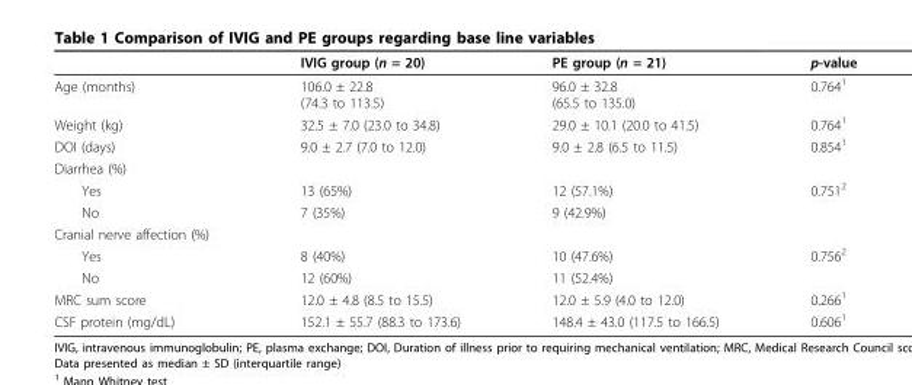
<table><thead><tr><td></td><td>IVIG group (n = 20)</td><td>PE group (n = 21)</td><td>p-value</td></tr></thead><tbody><tr><td>Age (months)</td><td>106.0 ± 22.8 (74.3 to 113.5)</td><td>96.0 ± 32.8 (65.5 to 135.0)</td><td>0.764<sup>1</sup></td></tr><tr><td>Weight (kg)</td><td>32.5 ± 7.0 (23.0 to 34.8)</td><td>29.0 ± 10.1 (20.0 to 41.5)</td><td>0.764<sup>1</sup></td></tr><tr><td>DOI (days)</td><td>9.0 ± 2.7 (7.0 to 12.0)</td><td>9.0 ± 2.8 (6.5 to 11.5)</td><td>0.854<sup>1</sup></td></tr><tr><td colspan="4">Diarrhea (%)</td></tr><tr><td>Yes</td><td>13 (65%)</td><td>12 (57.1%)</td><td>0.751<sup>2</sup></td></tr><tr><td>No</td><td>7 (35%)</td><td>9 (42.9%)</td><td></td></tr><tr><td colspan="4">Cranial nerve affection (%)</td></tr><tr><td>Yes</td><td>8 (40%)</td><td>10 (47.6%)</td><td>0.756<sup>2</sup></td></tr><tr><td>No</td><td>12 (60%)</td><td>11 (52.4%)</td><td></td></tr><tr><td>MRC sum score</td><td>12.0 ± 4.8 (8.5 to 15.5)</td><td>12.0 ± 5.9 (4.0 to 12.0)</td><td>0.266<sup>1</sup></td></tr><tr><td>CSF protein (mg/dL)</td><td>152.1 ± 55.7 (88.3 to 173.6)</td><td>148.4 ± 43.0 (117.5 to 166.5)</td><td>0.606<sup>1</sup></td></tr></tbody></table>